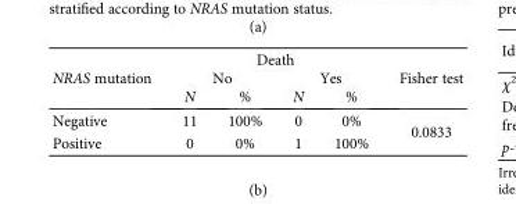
<table><thead><tr><td rowspan="3">NRAS mutation</td><td colspan="4">Death</td><td rowspan="3">Fisher test</td></tr><tr><td colspan="2">No</td><td colspan="2">Yes</td></tr><tr><td>N</td><td>%</td><td>N</td><td>%</td></tr></thead><tbody><tr><td>Negative</td><td>11</td><td>100%</td><td>0</td><td>0%</td><td rowspan="2">0.0833</td></tr><tr><td>Positive</td><td>0</td><td>0%</td><td>1</td><td>100%</td></tr></tbody></table>